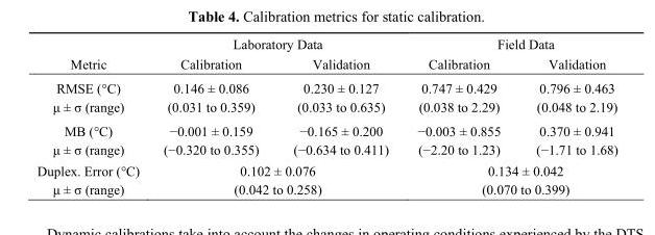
<table><thead><tr><td rowspan="2">Metric</td><td colspan="2">Laboratory Data</td><td colspan="2">Field Data</td></tr><tr><td>Calibration</td><td>Validation</td><td>Calibration</td><td>Validation</td></tr></thead><tbody><tr><td>RMSE (°C) μ ± σ (range)</td><td>0.146 ± 0.086 (0.031 to 0.359)</td><td>0.230 ± 0.127 (0.033 to 0.635)</td><td>0.747 ± 0.429 (0.038 to 2.29)</td><td>0.796 ± 0.463 (0.048 to 2.19)</td></tr><tr><td>MB (°C) μ ± σ (range)</td><td>−0.001 ± 0.159 (−0.320 to 0.355)</td><td>−0.165 ± 0.200 (−0.634 to 0.411)</td><td>−0.003 ± 0.855 (−2.20 to 1.23)</td><td>0.370 ± 0.941 (−1.71 to 1.68)</td></tr><tr><td>Duplex. Error (°C) μ ± σ (range)</td><td colspan="2">0.102 ± 0.076 (0.042 to 0.258)</td><td colspan="2">0.134 ± 0.042 (0.070 to 0.399)</td></tr></tbody></table>